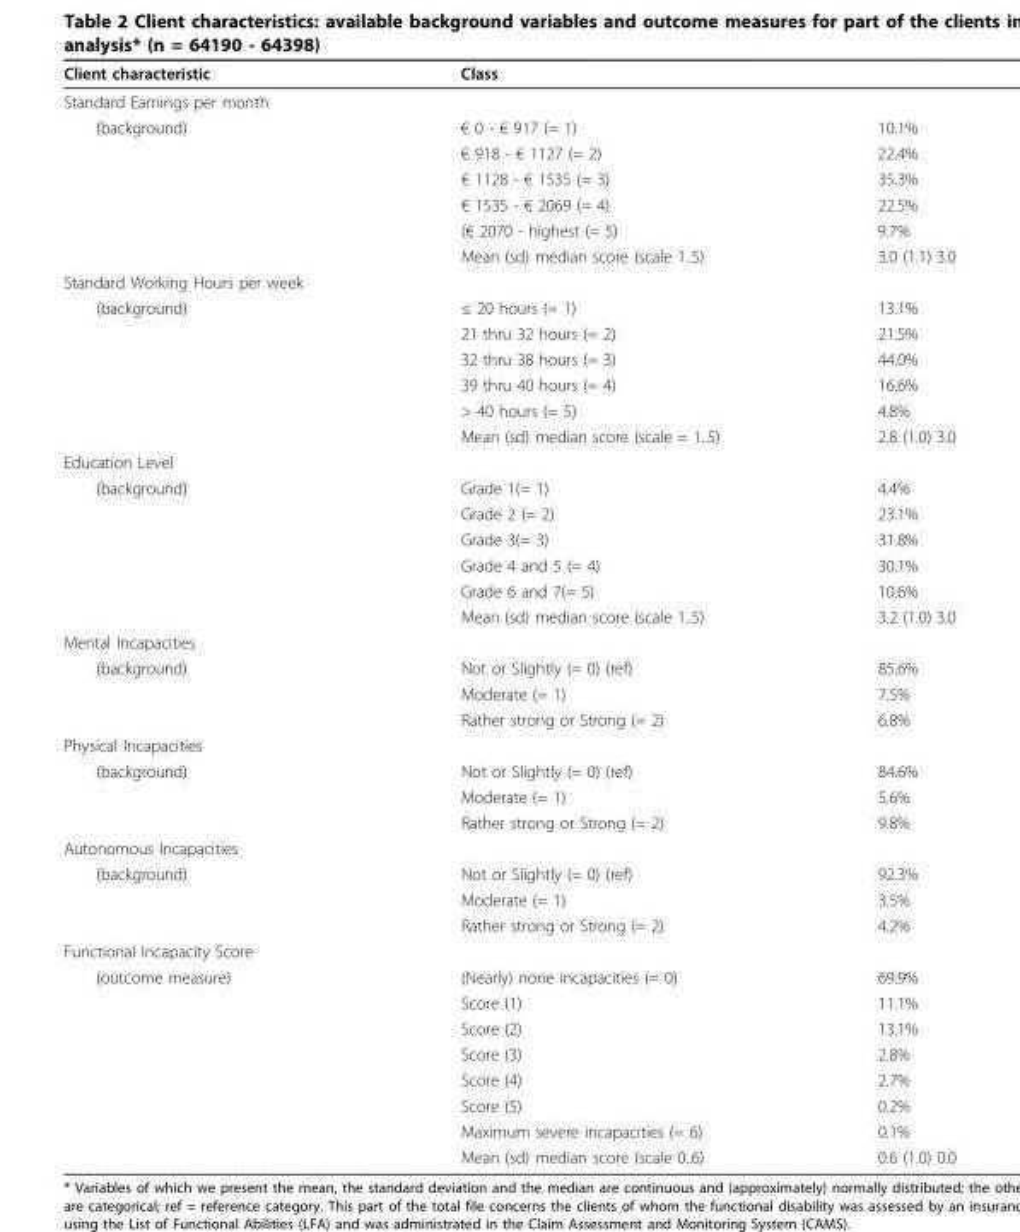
<table><thead><tr><td>Client characteristic</td><td>Class</td><td></td></tr></thead><tbody><tr><td colspan="3">Standard Earnings per month</td></tr><tr><td rowspan="6">(background)</td><td>€ 0 - € 917 (= 1)</td><td>10.1%</td></tr><tr><td>€ 918 - € 1127 (= 2)</td><td>22.4%</td></tr><tr><td>€ 1128 - € 1535 (= 3)</td><td>35.3%</td></tr><tr><td>€ 1535 - € 2069 (= 4)</td><td>22.5%</td></tr><tr><td>(€ 2070 - highest (= 5)</td><td>9.7%</td></tr><tr><td>Mean (sd) median score (scale 1..5)</td><td>3.0 (1.1) 3.0</td></tr><tr><td colspan="3">Standard Working Hours per week</td></tr><tr><td rowspan="6">(background)</td><td>≤ 20 hours (= 1)</td><td>13.1%</td></tr><tr><td>21 thru 32 hours (= 2)</td><td>21.5%</td></tr><tr><td>32 thru 38 hours (= 3)</td><td>44.0%</td></tr><tr><td>39 thru 40 hours (= 4)</td><td>16.6%</td></tr><tr><td>&gt; 40 hours (= 5)</td><td>4.8%</td></tr><tr><td>Mean (sd) median score (scale = 1..5)</td><td>2.8 (1.0) 3.0</td></tr><tr><td colspan="3">Education Level</td></tr><tr><td rowspan="6">(background)</td><td>Grade 1(= 1)</td><td>4.4%</td></tr><tr><td>Grade 2 (= 2)</td><td>23.1%</td></tr><tr><td>Grade 3(= 3)</td><td>31.8%</td></tr><tr><td>Grade 4 and 5 (= 4)</td><td>30.1%</td></tr><tr><td>Grade 6 and 7(= 5)</td><td>10.6%</td></tr><tr><td>Mean (sd) median score (scale 1..5)</td><td>3.2 (1.0) 3.0</td></tr><tr><td colspan="3">Mental Incapacities</td></tr><tr><td rowspan="3">(background)</td><td>Not or Slightly (= 0) (ref)</td><td>85.6%</td></tr><tr><td>Moderate (= 1)</td><td>7.5%</td></tr><tr><td>Rather strong or Strong (= 2)</td><td>6.8%</td></tr><tr><td colspan="3">Physical Incapacities</td></tr><tr><td rowspan="3">(background)</td><td>Not or Slightly (= 0) (ref)</td><td>84.6%</td></tr><tr><td>Moderate (= 1)</td><td>5.6%</td></tr><tr><td>Rather strong or Strong (= 2)</td><td>9.8%</td></tr><tr><td colspan="3">Autonomous Incapacities</td></tr><tr><td rowspan="3">(background)</td><td>Not or Slightly (= 0) (ref)</td><td>92.3%</td></tr><tr><td>Moderate (= 1)</td><td>3.5%</td></tr><tr><td>Rather strong or Strong (= 2)</td><td>4.2%</td></tr><tr><td colspan="3">Functional Incapacity Score</td></tr><tr><td rowspan="8">(outcome measure)</td><td>(Nearly) none incapacities (= 0)</td><td>69.9%</td></tr><tr><td>Score (1)</td><td>11.1%</td></tr><tr><td>Score (2)</td><td>13.1%</td></tr><tr><td>Score (3)</td><td>2.8%</td></tr><tr><td>Score (4)</td><td>2.7%</td></tr><tr><td>Score (5)</td><td>0.2%</td></tr><tr><td>Maximum severe incapacities (= 6)</td><td>0.1%</td></tr><tr><td>Mean (sd) median score (scale 0..6)</td><td>0.6 (1.0) 0.0</td></tr></tbody></table>